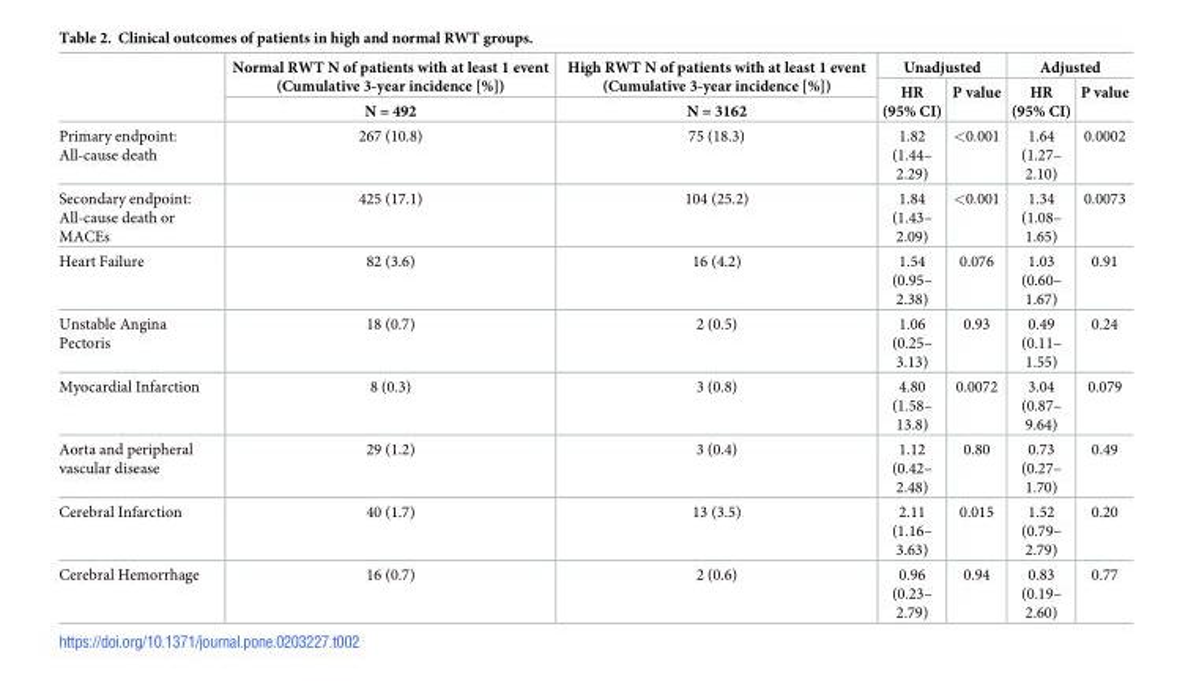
<table><thead><tr><td rowspan="3"></td><td rowspan="3">Normal RWT N of patients with at least 1 event (Cumulative 3-year incidence [%]) N = 492</td><td rowspan="3">High RWT N of patients with at least 1 event (Cumulative 3-year incidence [%]) N = 3162</td><td colspan="2">Unadjusted</td><td colspan="2">Adjusted</td></tr><tr><td rowspan="2">HR (95% CI)</td><td rowspan="2">P value</td><td rowspan="2">HR (95% CI)</td><td rowspan="2">P value</td></tr><tr></tr></thead><tbody><tr><td>Primary endpoint: All-cause death</td><td>267 (10.8)</td><td>75 (18.3)</td><td>1.82 (1.44– 2.29)</td><td>&lt;0.001</td><td>1.64 (1.27– 2.10)</td><td>0.0002</td></tr><tr><td>Secondary endpoint: All-cause death or MACEs</td><td>425 (17.1)</td><td>104 (25.2)</td><td>1.84 (1.43– 2.09)</td><td>&lt;0.001</td><td>1.34 (1.08– 1.65)</td><td>0.0073</td></tr><tr><td>Heart Failure</td><td>82 (3.6)</td><td>16 (4.2)</td><td>1.54 (0.95– 2.38)</td><td>0.076</td><td>1.03 (0.60– 1.67)</td><td>0.91</td></tr><tr><td>Unstable Angina Pectoris</td><td>18 (0.7)</td><td>2 (0.5)</td><td>1.06 (0.25– 3.13)</td><td>0.93</td><td>0.49 (0.11– 1.55)</td><td>0.24</td></tr><tr><td>Myocardial Infarction</td><td>8 (0.3)</td><td>3 (0.8)</td><td>4.80 (1.58– 13.8)</td><td>0.0072</td><td>3.04 (0.87– 9.64)</td><td>0.079</td></tr><tr><td>Aorta and peripheral vascular disease</td><td>29 (1.2)</td><td>3 (0.4)</td><td>1.12 (0.42– 2.48)</td><td>0.80</td><td>0.73 (0.27– 1.70)</td><td>0.49</td></tr><tr><td>Cerebral Infarction</td><td>40 (1.7)</td><td>13 (3.5)</td><td>2.11 (1.16– 3.63)</td><td>0.015</td><td>1.52 (0.79– 2.79)</td><td>0.20</td></tr><tr><td>Cerebral Hemorrhage</td><td>16 (0.7)</td><td>2 (0.6)</td><td>0.96 (0.23– 2.79)</td><td>0.94</td><td>0.83 (0.19– 2.60)</td><td>0.77</td></tr></tbody></table>